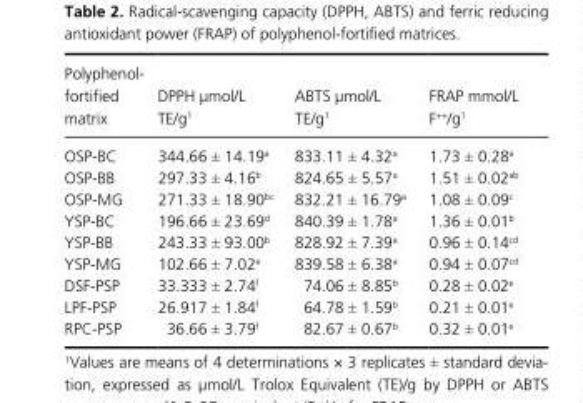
<table><thead><tr><td>Polyphenol- fortified matrix</td><td>DPPH μmol/L TE/g<sup>1</sup></td><td>ABTS μmol/L TE/g<sup>1</sup></td><td>FRAP mmol/L F<sup>++</sup>/g<sup>1</sup></td></tr></thead><tbody><tr><td>OSP- BC</td><td>344.66 ± 14.19<sup>a</sup></td><td>833.11 ± 4.32<sup>a</sup></td><td>1.73 ± 0.28<sup>a</sup></td></tr><tr><td>OSP- BB</td><td>297.33 ± 4.16<sup>b</sup></td><td>824.65 ± 5.57<sup>a</sup></td><td>1.51 ± 0.02<sup>ab</sup></td></tr><tr><td>OSP- MG</td><td>271.33 ± 18.90<sup>bc</sup></td><td>832.21 ± 16.79<sup>a</sup></td><td>1.08 ± 0.09<sup>c</sup></td></tr><tr><td>YSP- BC</td><td>196.66 ± 23.69<sup>d</sup></td><td>840.39 ± 1.78<sup>a</sup></td><td>1.36 ± 0.01<sup>b</sup></td></tr><tr><td>YSP- BB</td><td>243.33 ± 93.00<sup>b</sup></td><td>828.92 ± 7.39<sup>a</sup></td><td>0.96 ± 0.14<sup>cd</sup></td></tr><tr><td>YSP- MG</td><td>102.66 ± 7.02<sup>e</sup></td><td>839.58 ± 6.38<sup>a</sup></td><td>0.94 ± 0.07<sup>cd</sup></td></tr><tr><td>DSF- PSP</td><td>33.333 ± 2.74<sup>f</sup></td><td>74.06 ± 8.85<sup>b</sup></td><td>0.28 ± 0.02<sup>e</sup></td></tr><tr><td>LPF- PSP</td><td>26.917 ± 1.84<sup>f</sup></td><td>64.78 ± 1.59<sup>b</sup></td><td>0.21 ± 0.01<sup>e</sup></td></tr><tr><td>RPC- PSP</td><td>36.66 ± 3.79<sup>f</sup></td><td>82.67 ± 0.67<sup>b</sup></td><td>0.32 ± 0.01<sup>e</sup></td></tr></tbody></table>